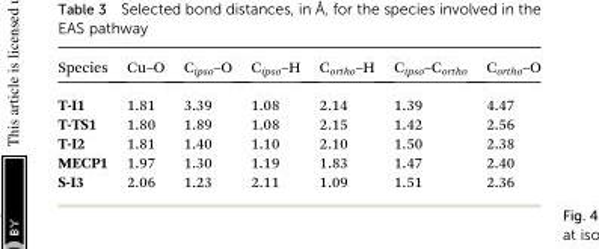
<table><thead><tr><td>Species</td><td>Cu–O</td><td>C<sub>ipso</sub>–O</td><td>C<sub>ipso</sub>–H</td><td>C<sub>ortho</sub>–H</td><td>C<sub>ipso</sub>–C<sub>ortho</sub></td><td>C<sub>ortho</sub>–O</td></tr></thead><tbody><tr><td>T-I1</td><td>1.81</td><td>3.39</td><td>1.08</td><td>2.14</td><td>1.39</td><td>4.47</td></tr><tr><td>T-TS1</td><td>1.80</td><td>1.89</td><td>1.08</td><td>2.15</td><td>1.42</td><td>2.56</td></tr><tr><td>T-I2</td><td>1.81</td><td>1.40</td><td>1.10</td><td>2.10</td><td>1.50</td><td>2.38</td></tr><tr><td>MECP1</td><td>1.97</td><td>1.30</td><td>1.19</td><td>1.83</td><td>1.47</td><td>2.40</td></tr><tr><td>S-I3</td><td>2.06</td><td>1.23</td><td>2.11</td><td>1.09</td><td>1.51</td><td>2.36</td></tr></tbody></table>